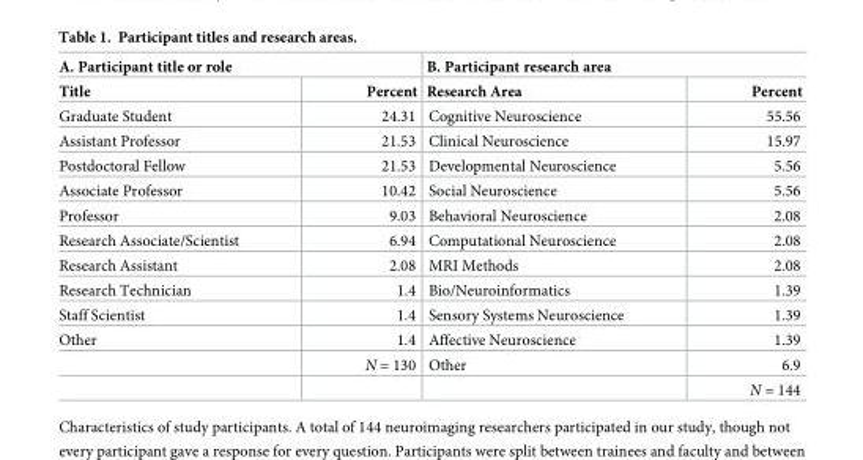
<table><thead><tr><td colspan="2">A. Participant title or role</td><td colspan="2">B. Participant research area</td></tr><tr><td>Title</td><td>Percent</td><td>Research Area</td><td>Percent</td></tr></thead><tbody><tr><td>Graduate Student</td><td>24.31</td><td>Cognitive Neuroscience</td><td>55.56</td></tr><tr><td>Assistant Professor</td><td>21.53</td><td>Clinical Neuroscience</td><td>15.97</td></tr><tr><td>Postdoctoral Fellow</td><td>21.53</td><td>Developmental Neuroscience</td><td>5.56</td></tr><tr><td>Associate Professor</td><td>10.42</td><td>Social Neuroscience</td><td>5.56</td></tr><tr><td>Professor</td><td>9.03</td><td>Behavioral Neuroscience</td><td>2.08</td></tr><tr><td>Research Associate/Scientist</td><td>6.94</td><td>Computational Neuroscience</td><td>2.08</td></tr><tr><td>Research Assistant</td><td>2.08</td><td>MRI Methods</td><td>2.08</td></tr><tr><td>Research Technician</td><td>1.4</td><td>Bio/Neuroinformatics</td><td>1.39</td></tr><tr><td>Staff Scientist</td><td>1.4</td><td>Sensory Systems Neuroscience</td><td>1.39</td></tr><tr><td rowspan="3">Other</td><td>1.4</td><td>Affective Neuroscience</td><td>1.39</td></tr><tr><td>N = 130</td><td>Other</td><td>6.9</td></tr><tr><td></td><td></td><td>N = 144</td></tr></tbody></table>